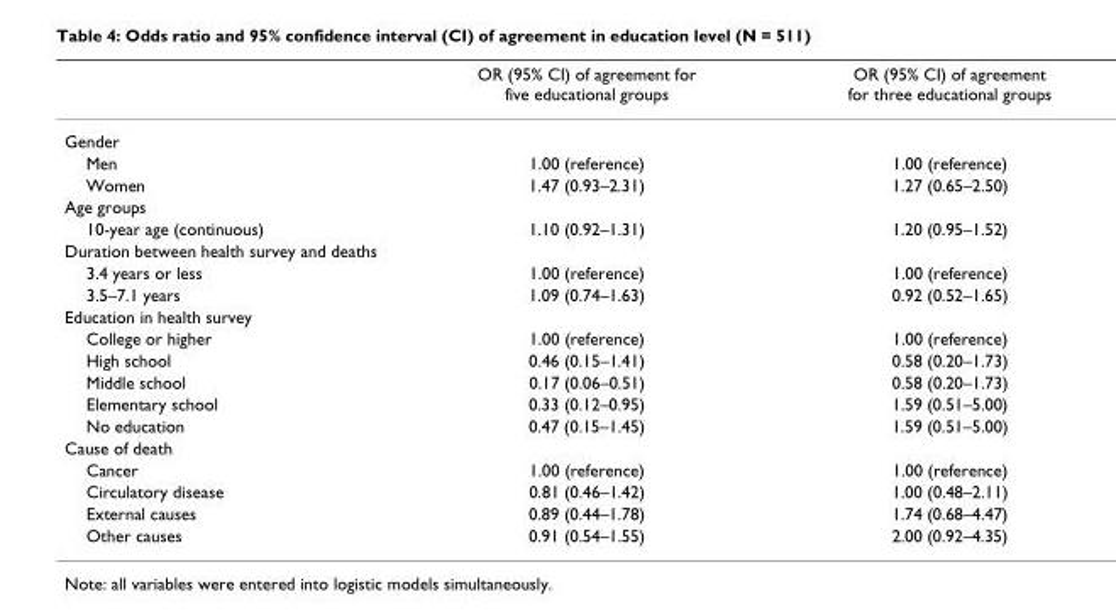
<table><thead><tr><td></td><td>OR (95% CI) of agreement for five educational groups</td><td>OR (95% CI) of agreement for three educational groups</td></tr></thead><tbody><tr><td colspan="3">Gender</td></tr><tr><td>Men</td><td>1.00 (reference)</td><td>1.00 (reference)</td></tr><tr><td>Women</td><td>1.47 (0.93–2.31)</td><td>1.27 (0.65–2.50)</td></tr><tr><td colspan="3">Age groups</td></tr><tr><td>10-year age (continuous)</td><td>1.10 (0.92–1.31)</td><td>1.20 (0.95–1.52)</td></tr><tr><td colspan="3">Duration between health survey and deaths</td></tr><tr><td>3.4 years or less</td><td>1.00 (reference)</td><td>1.00 (reference)</td></tr><tr><td>3.5–7.1 years</td><td>1.09 (0.74–1.63)</td><td>0.92 (0.52–1.65)</td></tr><tr><td colspan="3">Education in health survey</td></tr><tr><td>College or higher</td><td>1.00 (reference)</td><td>1.00 (reference)</td></tr><tr><td>High school</td><td>0.46 (0.15–1.41)</td><td>0.58 (0.20–1.73)</td></tr><tr><td>Middle school</td><td>0.17 (0.06–0.51)</td><td>0.58 (0.20–1.73)</td></tr><tr><td>Elementary school</td><td>0.33 (0.12–0.95)</td><td>1.59 (0.51–5.00)</td></tr><tr><td>No education</td><td>0.47 (0.15–1.45)</td><td>1.59 (0.51–5.00)</td></tr><tr><td colspan="3">Cause of death</td></tr><tr><td>Cancer</td><td>1.00 (reference)</td><td>1.00 (reference)</td></tr><tr><td>Circulatory disease</td><td>0.81 (0.46–1.42)</td><td>1.00 (0.48–2.11)</td></tr><tr><td>External causes</td><td>0.89 (0.44–1.78)</td><td>1.74 (0.68–4.47)</td></tr><tr><td>Other causes</td><td>0.91 (0.54–1.55)</td><td>2.00 (0.92–4.35)</td></tr></tbody></table>